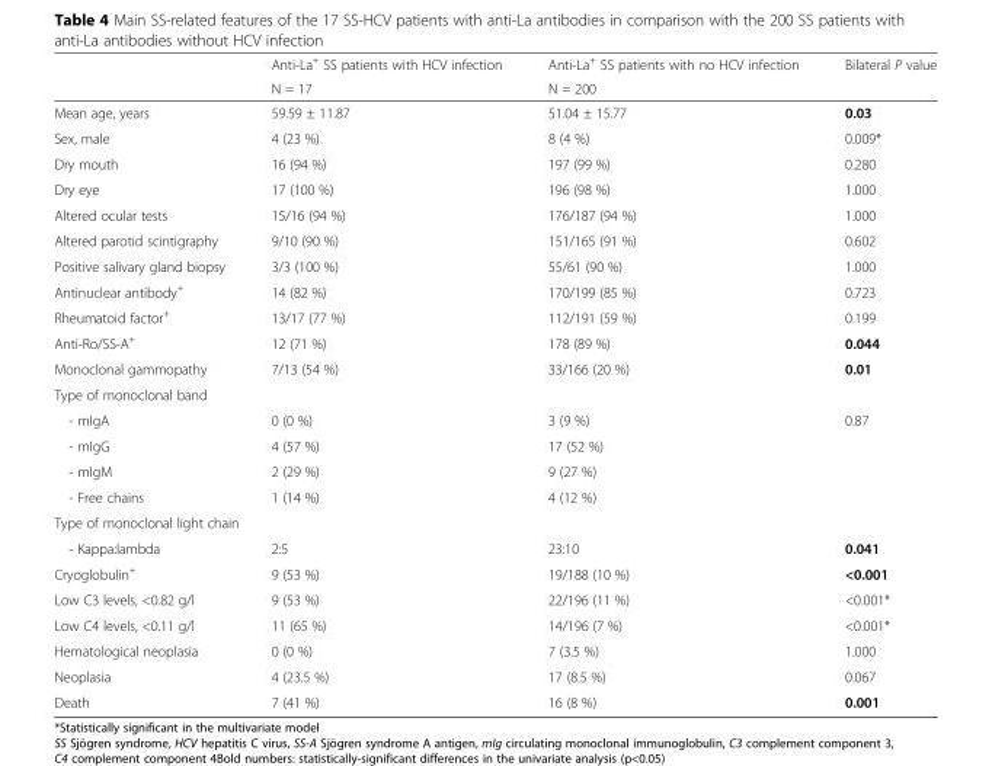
<table><thead><tr><td rowspan="2"></td><td rowspan="2">Anti-La<sup>+</sup> SS patients with HCV infection N = 17</td><td rowspan="2">Anti-La<sup>+</sup> SS patients with no HCV infection N = 200</td><td rowspan="2">Bilateral P value</td></tr><tr></tr></thead><tbody><tr><td>Mean age, years</td><td>59.59 ± 11.87</td><td>51.04 ± 15.77</td><td>0.03</td></tr><tr><td>Sex, male</td><td>4 (23 %)</td><td>8 (4 %)</td><td>0.009*</td></tr><tr><td>Dry mouth</td><td>16 (94 %)</td><td>197 (99 %)</td><td>0.280</td></tr><tr><td>Dry eye</td><td>17 (100 %)</td><td>196 (98 %)</td><td>1.000</td></tr><tr><td>Altered ocular tests</td><td>15/16 (94 %)</td><td>176/187 (94 %)</td><td>1.000</td></tr><tr><td>Altered parotid scintigraphy</td><td>9/10 (90 %)</td><td>151/165 (91 %)</td><td>0.602</td></tr><tr><td>Positive salivary gland biopsy</td><td>3/3 (100 %)</td><td>55/61 (90 %)</td><td>1.000</td></tr><tr><td>Antinuclear antibody<sup>+</sup></td><td>14 (82 %)</td><td>170/199 (85 %)</td><td>0.723</td></tr><tr><td>Rheumatoid factor<sup>+</sup></td><td>13/17 (77 %)</td><td>112/191 (59 %)</td><td>0.199</td></tr><tr><td>Anti-Ro/SS-A<sup>+</sup></td><td>12 (71 %)</td><td>178 (89 %)</td><td>0.044</td></tr><tr><td>Monoclonal gammopathy</td><td>7/13 (54 %)</td><td>33/166 (20 %)</td><td>0.01</td></tr><tr><td colspan="4">Type of monoclonal band</td></tr><tr><td>- mIgA</td><td>0 (0 %)</td><td>3 (9 %)</td><td rowspan="4">0.87</td></tr><tr><td>- mIgG</td><td>4 (57 %)</td><td>17 (52 %)</td></tr><tr><td>- mIgM</td><td>2 (29 %)</td><td>9 (27 %)</td></tr><tr><td>- Free chains</td><td>1 (14 %)</td><td>4 (12 %)</td></tr><tr><td colspan="4">Type of monoclonal light chain</td></tr><tr><td>- Kappa:lambda</td><td>2:5</td><td>23:10</td><td>0.041</td></tr><tr><td>Cryoglobulin<sup>+</sup></td><td>9 (53 %)</td><td>19/188 (10 %)</td><td>&lt;0.001</td></tr><tr><td>Low C3 levels, &lt;0.82 g/l</td><td>9 (53 %)</td><td>22/196 (11 %)</td><td>&lt;0.001*</td></tr><tr><td>Low C4 levels, &lt;0.11 g/l</td><td>11 (65 %)</td><td>14/196 (7 %)</td><td>&lt;0.001*</td></tr><tr><td>Hematological neoplasia</td><td>0 (0 %)</td><td>7 (3.5 %)</td><td>1.000</td></tr><tr><td>Neoplasia</td><td>4 (23.5 %)</td><td>17 (8.5 %)</td><td>0.067</td></tr><tr><td>Death</td><td>7 (41 %)</td><td>16 (8 %)</td><td>0.001</td></tr></tbody></table>